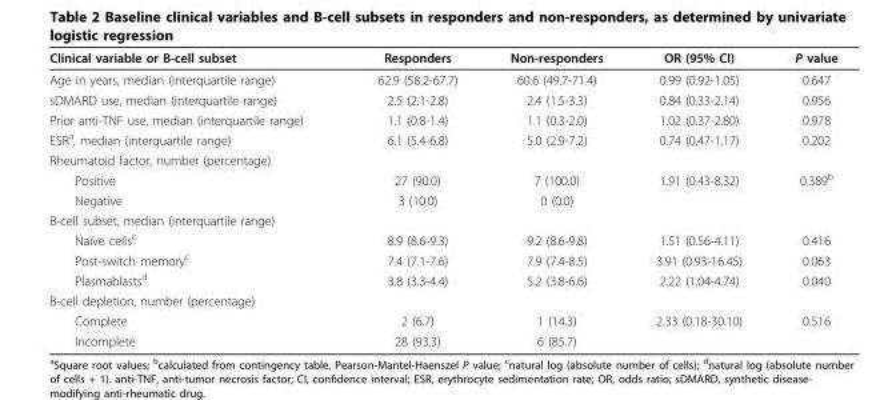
<table><thead><tr><td>Clinical variable or B-cell subset</td><td>Responders</td><td>Non-responders</td><td>OR (95% CI)</td><td>P value</td></tr></thead><tbody><tr><td>Age in years, median (interquartile range)</td><td>62.9 (58.2-67.7)</td><td>60.6 (49.7-71.4)</td><td>0.99 (0.92-1.05)</td><td>0.647</td></tr><tr><td>sDMARD use, median (interquartile range)</td><td>2.5 (2.1-2.8)</td><td>2.4 (1.5-3.3)</td><td>0.84 (0.33-2.14)</td><td>0.956</td></tr><tr><td>Prior anti-TNF use, median (interquartile range)</td><td>1.1 (0.8-1.4)</td><td>1.1 (0.3-2.0)</td><td>1.02 (0.37-2.80)</td><td>0.978</td></tr><tr><td>ESR<sup>a</sup>, median (interquartile range)</td><td>6.1 (5.4-6.8)</td><td>5.0 (2.9-7.2)</td><td>0.74 (0.47-1.17)</td><td>0.202</td></tr><tr><td colspan="5">Rheumatoid factor, number (percentage)</td></tr><tr><td>Positive</td><td>27 (90.0)</td><td>7 (100.0)</td><td>1.91 (0.43-8.32)</td><td>0.389<sup>b</sup></td></tr><tr><td>Negative</td><td>3 (10.0)</td><td>0 (0.0)</td><td></td><td></td></tr><tr><td colspan="5">B-cell subset, median (interquartile range)</td></tr><tr><td>Naïve cells<sup>c</sup></td><td>8.9 (8.6-9.3)</td><td>9.2 (8.6-9.8)</td><td>1.51 (0.56-4.11)</td><td>0.416</td></tr><tr><td>Post-switch memory<sup>c</sup></td><td>7.4 (7.1-7.6)</td><td>7.9 (7.4-8.5)</td><td>3.91 (0.93-16.45)</td><td>0.063</td></tr><tr><td>Plasmablasts<sup>d</sup></td><td>3.8 (3.3-4.4)</td><td>5.2 (3.8-6.6)</td><td>2.22 (1.04-4.74)</td><td>0.040</td></tr><tr><td colspan="5">B-cell depletion, number (percentage)</td></tr><tr><td>Complete</td><td>2 (6.7)</td><td>1 (14.3)</td><td>2.33 (0.18-30.10)</td><td>0.516</td></tr><tr><td>Incomplete</td><td>28 (93.3)</td><td>6 (85.7)</td><td></td><td></td></tr></tbody></table>